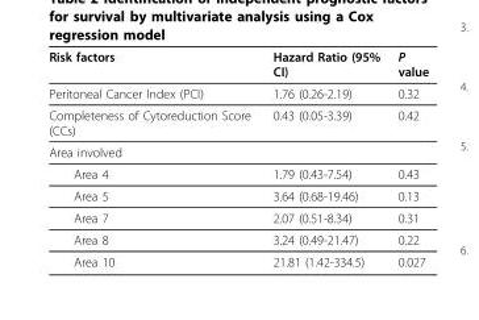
<table><thead><tr><td>Risk factors</td><td>Hazard Ratio (95% CI)</td><td>P value</td></tr></thead><tbody><tr><td>Peritoneal Cancer Index (PCI)</td><td>1.76 (0.26-2.19)</td><td>0.32</td></tr><tr><td>Completeness of Cytoreduction Score (CCs)</td><td>0.43 (0.05-3.39)</td><td>0.42</td></tr><tr><td colspan="3">Area involved</td></tr><tr><td>Area 4</td><td>1.79 (0.43-7.54)</td><td>0.43</td></tr><tr><td>Area 5</td><td>3.64 (0.68-19.46)</td><td>0.13</td></tr><tr><td>Area 7</td><td>2.07 (0.51-8.34)</td><td>0.31</td></tr><tr><td>Area 8</td><td>3.24 (0.49-21.47)</td><td>0.22</td></tr><tr><td>Area 10</td><td>21.81 (1.42-334.5)</td><td>0.027</td></tr></tbody></table>